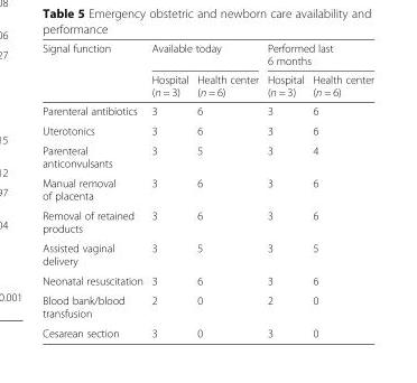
<table><thead><tr><td rowspan="2">Signal function</td><td colspan="2">Available today</td><td colspan="2">Performed last 6 months</td></tr><tr><td>Hospital (n = 3)</td><td>Health center (n = 6)</td><td>Hospital (n = 3)</td><td>Health center (n = 6)</td></tr></thead><tbody><tr><td>Parenteral antibiotics</td><td>3</td><td>6</td><td>3</td><td>6</td></tr><tr><td>Uterotonics</td><td>3</td><td>6</td><td>3</td><td>6</td></tr><tr><td>Parenteral anticonvulsants</td><td>3</td><td>5</td><td>3</td><td>4</td></tr><tr><td>Manual removal of placenta</td><td>3</td><td>6</td><td>3</td><td>6</td></tr><tr><td>Removal of retained products</td><td>3</td><td>6</td><td>3</td><td>6</td></tr><tr><td>Assisted vaginal delivery</td><td>3</td><td>5</td><td>3</td><td>5</td></tr><tr><td>Neonatal resuscitation</td><td>3</td><td>6</td><td>3</td><td>6</td></tr><tr><td>Blood bank/blood transfusion</td><td>2</td><td>0</td><td>2</td><td>0</td></tr><tr><td>Cesarean section</td><td>3</td><td>0</td><td>3</td><td>0</td></tr></tbody></table>